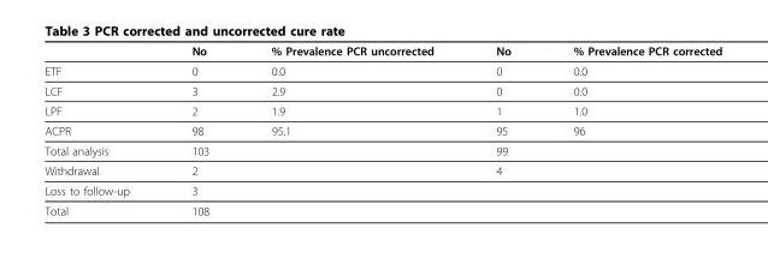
<table><thead><tr><td></td><td>No</td><td>% Prevalence PCR uncorrected</td><td>No</td><td>% Prevalence PCR corrected</td></tr></thead><tbody><tr><td>ETF</td><td>0</td><td>0.0</td><td>0</td><td>0.0</td></tr><tr><td>LCF</td><td>3</td><td>2.9</td><td>0</td><td>0.0</td></tr><tr><td>LPF</td><td>2</td><td>1.9</td><td>1</td><td>1.0</td></tr><tr><td>ACPR</td><td>98</td><td>95.1</td><td>95</td><td>96</td></tr><tr><td>Total analysis</td><td>103</td><td></td><td>99</td><td></td></tr><tr><td>Withdrawal</td><td>2</td><td></td><td>4</td><td></td></tr><tr><td>Loss to follow-up</td><td>3</td><td></td><td></td><td></td></tr><tr><td>Total</td><td>108</td><td></td><td></td><td></td></tr></tbody></table>